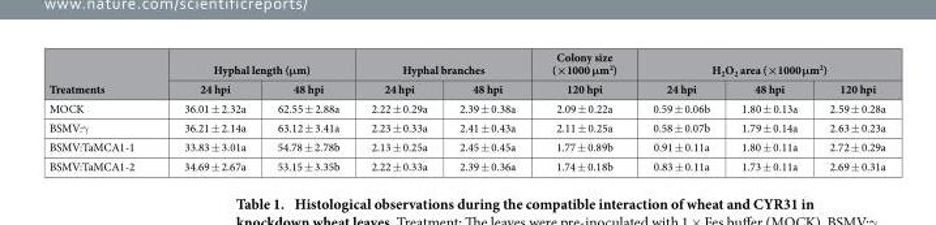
<table><thead><tr><td rowspan="2">Treatments</td><td colspan="2">Hyphal length (μm)</td><td colspan="2">Hyphal branches</td><td rowspan="2">Colony size (×1000 μm<sup>2</sup>) 120 hpi</td><td colspan="3">H<sub>2</sub>O<sub>2</sub> area (×1000 μm<sup>2</sup>)</td></tr><tr><td>24 hpi</td><td>48 hpi</td><td>24 hpi</td><td>48 hpi</td><td>24 hpi</td><td>48 hpi</td><td>120 hpi</td></tr></thead><tbody><tr><td>MOCK</td><td>36.01 ± 2.32a</td><td>62.55 ± 2.88a</td><td>2.22 ± 0.29a</td><td>2.39 ± 0.38a</td><td>2.09 ± 0.22a</td><td>0.59 ± 0.06b</td><td>1.80 ± 0.13a</td><td>2.59 ± 0.28a</td></tr><tr><td>BSMV:γ</td><td>36.21 ± 2.14a</td><td>63.12 ± 3.41a</td><td>2.23 ± 0.33a</td><td>2.41 ± 0.43a</td><td>2.11 ± 0.25a</td><td>0.58 ± 0.07b</td><td>1.79 ± 0.14a</td><td>2.63 ± 0.23a</td></tr><tr><td>BSMV:TaMCA1-1</td><td>33.83 ± 3.01a</td><td>54.78 ± 2.78b</td><td>2.13 ± 0.25a</td><td>2.45 ± 0.45a</td><td>1.77 ± 0.89b</td><td>0.91 ± 0.11a</td><td>1.80 ± 0.11a</td><td>2.72 ± 0.29a</td></tr><tr><td>BSMV:TaMCA1-2</td><td>34.69 ± 2.67a</td><td>53.15 ± 3.35b</td><td>2.22 ± 0.33a</td><td>2.39 ± 0.36a</td><td>1.74 ± 0.18b</td><td>0.83 ± 0.11a</td><td>1.73 ± 0.11a</td><td>2.69 ± 0.31a</td></tr></tbody></table>